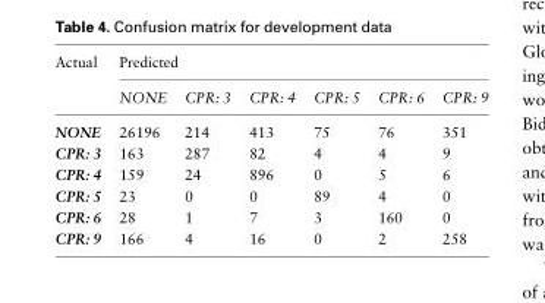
<table><thead><tr><td rowspan="2">Actual</td><td colspan="6">Predicted</td></tr><tr><td>NONE</td><td>CPR: 3</td><td>CPR: 4</td><td>CPR: 5</td><td>CPR: 6</td><td>CPR: 9</td></tr></thead><tbody><tr><td>NONE</td><td>26196</td><td>214</td><td>413</td><td>75</td><td>76</td><td>351</td></tr><tr><td>CPR: 3</td><td>163</td><td>287</td><td>82</td><td>4</td><td>4</td><td>9</td></tr><tr><td>CPR: 4</td><td>159</td><td>24</td><td>896</td><td>0</td><td>5</td><td>6</td></tr><tr><td>CPR: 5</td><td>23</td><td>0</td><td>0</td><td>89</td><td>4</td><td>0</td></tr><tr><td>CPR: 6</td><td>28</td><td>1</td><td>7</td><td>3</td><td>160</td><td>0</td></tr><tr><td>CPR: 9</td><td>166</td><td>4</td><td>16</td><td>0</td><td>2</td><td>258</td></tr></tbody></table>